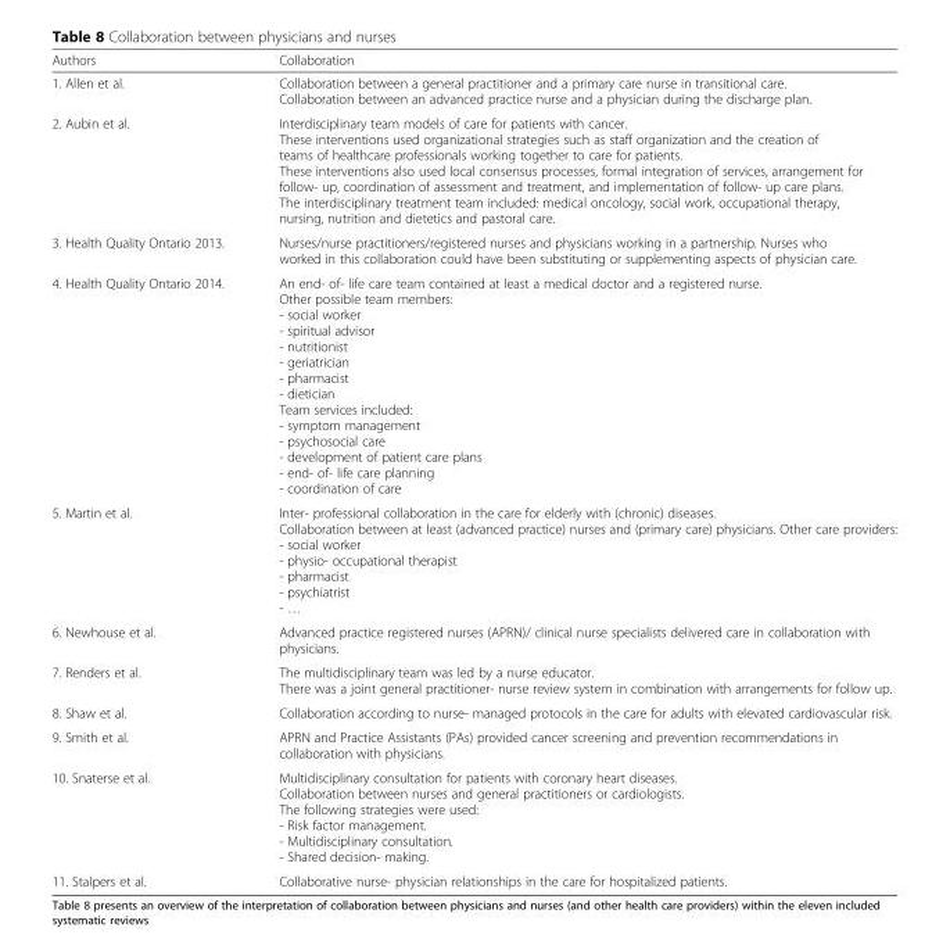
<table><thead><tr><td>Authors</td><td>Collaboration</td></tr></thead><tbody><tr><td>1. Allen et al.</td><td>Collaboration between a general practitioner and a primary care nurse in transitional care. Collaboration between an advanced practice nurse and a physician during the discharge plan.</td></tr><tr><td>2. Aubin et al.</td><td>Interdisciplinary team models of care for patients with cancer. These interventions used organizational strategies such as staff organization and the creation of teams of healthcare professionals working together to care for patients. These interventions also used local consensus processes, formal integration of services, arrangement for follow- up, coordination of assessment and treatment, and implementation of follow- up care plans. The interdisciplinary treatment team included: medical oncology, social work, occupational therapy, nursing, nutrition and dietetics and pastoral care.</td></tr><tr><td>3. Health Quality Ontario 2013.</td><td>Nurses/nurse practitioners/registered nurses and physicians working in a partnership. Nurses who worked in this collaboration could have been substituting or supplementing aspects of physician care.</td></tr><tr><td>4. Health Quality Ontario 2014.</td><td>An end- of- life care team contained at least a medical doctor and a registered nurse. Other possible team members: - social worker - spiritual advisor - nutritionist - geriatrician - pharmacist - dietician Team services included: - symptom management - psychosocial care - development of patient care plans - end- of- life care planning - coordination of care</td></tr><tr><td>5. Martin et al.</td><td>Inter- professional collaboration in the care for elderly with (chronic) diseases. Collaboration between at least (advanced practice) nurses and (primary care) physicians. Other care providers: - social worker - physio- occupational therapist - pharmacist - psychiatrist - …</td></tr><tr><td>6. Newhouse et al.</td><td>Advanced practice registered nurses (APRN)/ clinical nurse specialists delivered care in collaboration with physicians.</td></tr><tr><td>7. Renders et al.</td><td>The multidisciplinary team was led by a nurse educator. There was a joint general practitioner- nurse review system in combination with arrangements for follow up.</td></tr><tr><td>8. Shaw et al.</td><td>Collaboration according to nurse- managed protocols in the care for adults with elevated cardiovascular risk.</td></tr><tr><td>9. Smith et al.</td><td>APRN and Practice Assistants (PAs) provided cancer screening and prevention recommendations in collaboration with physicians.</td></tr><tr><td>10. Snaterse et al.</td><td>Multidisciplinary consultation for patients with coronary heart diseases. Collaboration between nurses and general practitioners or cardiologists. The following strategies were used: - Risk factor management. - Multidisciplinary consultation. - Shared decision- making.</td></tr><tr><td>11. Stalpers et al.</td><td>Collaborative nurse- physician relationships in the care for hospitalized patients.</td></tr></tbody></table>